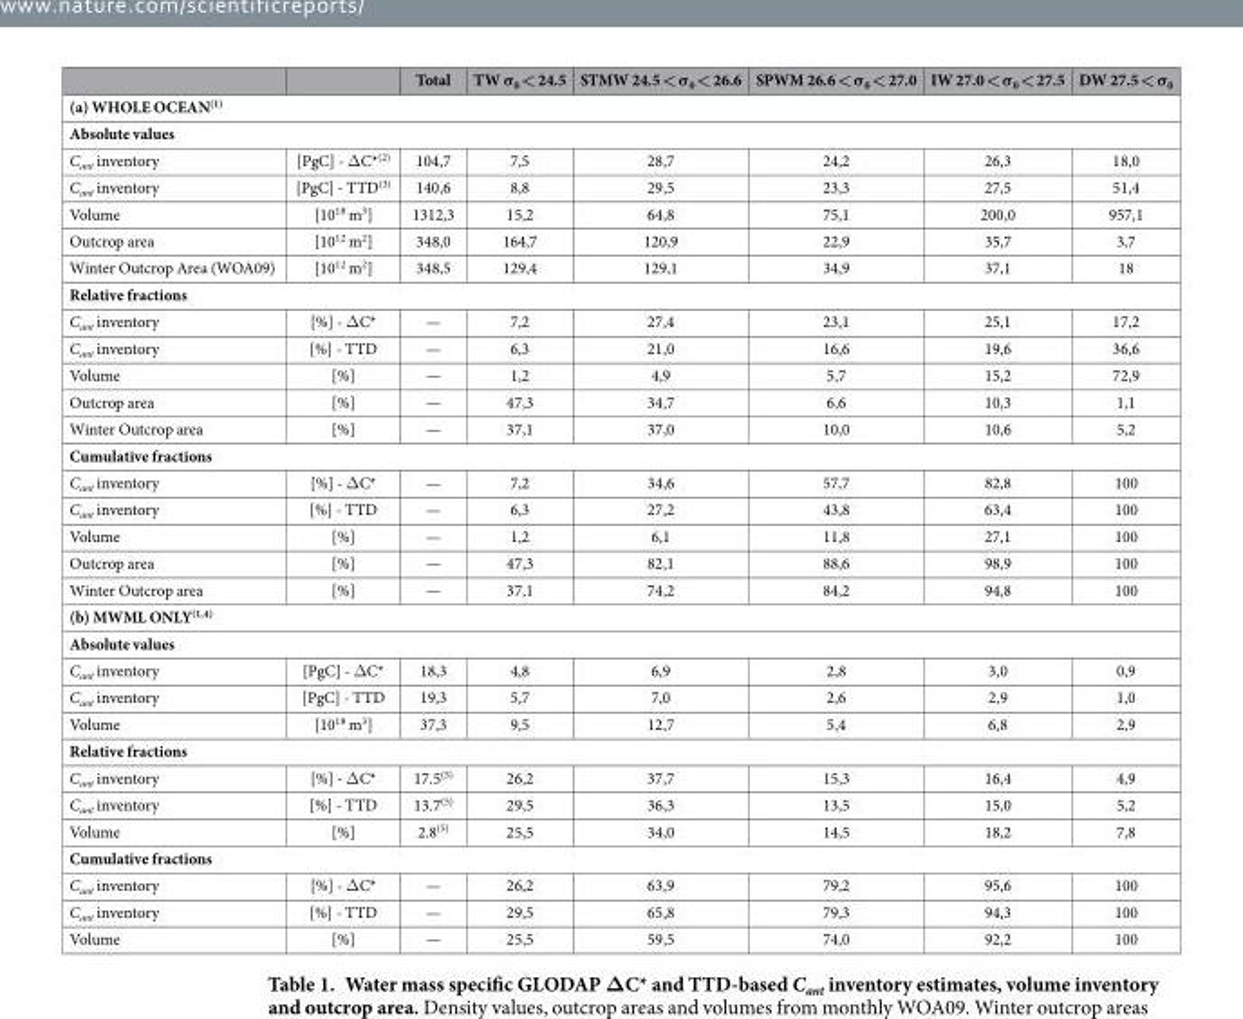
<table><thead><tr><td></td><td></td><td>Total</td><td>TW σ<sub>θ</sub> &lt; 24.5</td><td>STMW 24.5 &lt; σ<sub>θ</sub> &lt; 26.6</td><td>SPWM 26.6 &lt; σ<sub>θ</sub> &lt; 27.0</td><td>IW 27.0 &lt; σ<sub>θ</sub> &lt; 27.5</td><td>DW 27.5 &lt; σ<sub>θ</sub></td></tr></thead><tbody><tr><td colspan="8">(a) WHOLE OCEAN<sup>(1)</sup></td></tr><tr><td colspan="8">Absolute values</td></tr><tr><td>C<sub>ant</sub> inventory</td><td>[PgC] - Δ C*<sup>(2)</sup></td><td>104,7</td><td>7,5</td><td>28,7</td><td>24,2</td><td>26,3</td><td>18,0</td></tr><tr><td>C<sub>ant</sub> inventory</td><td>[PgC] - TTD<sup>(3)</sup></td><td>140,6</td><td>8,8</td><td>29,5</td><td>23,3</td><td>27,5</td><td>51,4</td></tr><tr><td>Volume</td><td>[10<sup>18</sup> m<sup>3</sup>]</td><td>1312,3</td><td>15,2</td><td>64,8</td><td>75,1</td><td>200,0</td><td>957,1</td></tr><tr><td>Outcrop area</td><td>[10<sup>12</sup> m<sup>2</sup>]</td><td>348,0</td><td>164,7</td><td>120,9</td><td>22,9</td><td>35,7</td><td>3,7</td></tr><tr><td>Winter Outcrop Area (WOA09)</td><td>[10<sup>12</sup> m<sup>2</sup>]</td><td>348,5</td><td>129,4</td><td>129,1</td><td>34,9</td><td>37,1</td><td>18</td></tr><tr><td colspan="8">Relative fractions</td></tr><tr><td>C<sub>ant</sub> inventory</td><td>[%] - Δ C*</td><td>—</td><td>7,2</td><td>27,4</td><td>23,1</td><td>25,1</td><td>17,2</td></tr><tr><td>C<sub>ant</sub> inventory</td><td>[%] - TTD</td><td>—</td><td>6,3</td><td>21,0</td><td>16,6</td><td>19,6</td><td>36,6</td></tr><tr><td>Volume</td><td>[%]</td><td>—</td><td>1,2</td><td>4,9</td><td>5,7</td><td>15,2</td><td>72,9</td></tr><tr><td>Outcrop area</td><td>[%]</td><td>—</td><td>47,3</td><td>34,7</td><td>6,6</td><td>10,3</td><td>1,1</td></tr><tr><td>Winter Outcrop area</td><td>[%]</td><td>—</td><td>37,1</td><td>37,0</td><td>10,0</td><td>10,6</td><td>5,2</td></tr><tr><td colspan="8">Cumulative fractions</td></tr><tr><td>C<sub>ant</sub> inventory</td><td>[%] - Δ C*</td><td>—</td><td>7,2</td><td>34,6</td><td>57,7</td><td>82,8</td><td>100</td></tr><tr><td>C<sub>ant</sub> inventory</td><td>[%] - TTD</td><td>—</td><td>6,3</td><td>27,2</td><td>43,8</td><td>63,4</td><td>100</td></tr><tr><td>Volume</td><td>[%]</td><td>—</td><td>1,2</td><td>6,1</td><td>11,8</td><td>27,1</td><td>100</td></tr><tr><td>Outcrop area</td><td>[%]</td><td>—</td><td>47,3</td><td>82,1</td><td>88,6</td><td>98,9</td><td>100</td></tr><tr><td>Winter Outcrop area</td><td>[%]</td><td>—</td><td>37,1</td><td>74,2</td><td>84,2</td><td>94,8</td><td>100</td></tr><tr><td colspan="8">(b) MWML ONLY<sup>(1,4)</sup></td></tr><tr><td colspan="8">Absolute values</td></tr><tr><td>C<sub>ant</sub> inventory</td><td>[PgC] - Δ C*</td><td>18,3</td><td>4,8</td><td>6,9</td><td>2,8</td><td>3,0</td><td>0,9</td></tr><tr><td>C<sub>ant</sub> inventory</td><td>[PgC] - TTD</td><td>19,3</td><td>5,7</td><td>7,0</td><td>2,6</td><td>2,9</td><td>1,0</td></tr><tr><td>Volume</td><td>[10<sup>18</sup> m<sup>3</sup>]</td><td>37,3</td><td>9,5</td><td>12,7</td><td>5,4</td><td>6,8</td><td>2,9</td></tr><tr><td colspan="8">Relative fractions</td></tr><tr><td>C<sub>ant</sub> inventory</td><td>[%] - Δ C*</td><td>17.5<sup>(5)</sup></td><td>26,2</td><td>37,7</td><td>15,3</td><td>16,4</td><td>4,9</td></tr><tr><td>C<sub>ant</sub> inventory</td><td>[%] - TTD</td><td>13.7<sup>(5)</sup></td><td>29,5</td><td>36,3</td><td>13,5</td><td>15,0</td><td>5,2</td></tr><tr><td>Volume</td><td>[%]</td><td>2.8<sup>(5)</sup></td><td>25,5</td><td>34,0</td><td>14,5</td><td>18,2</td><td>7,8</td></tr><tr><td colspan="8">Cumulative fractions</td></tr><tr><td>C<sub>ant</sub> inventory</td><td>[%] - Δ C*</td><td>—</td><td>26,2</td><td>63,9</td><td>79,2</td><td>95,6</td><td>100</td></tr><tr><td>C<sub>ant</sub> inventory</td><td>[%] - TTD</td><td>—</td><td>29,5</td><td>65,8</td><td>79,3</td><td>94,3</td><td>100</td></tr><tr><td>Volume</td><td>[%]</td><td>—</td><td>25,5</td><td>59,5</td><td>74,0</td><td>92,2</td><td>100</td></tr></tbody></table>